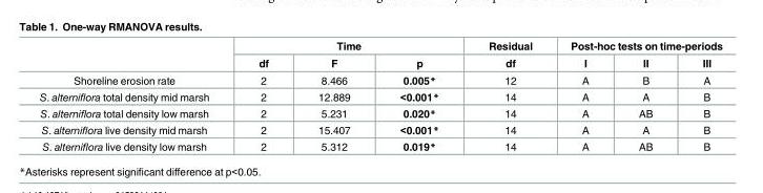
<table><thead><tr><td rowspan="2"></td><td colspan="3">Time</td><td rowspan="2">Residual df</td><td colspan="3">Post-hoc tests on time-periods</td></tr><tr><td>df</td><td>F</td><td>p</td><td>I</td><td>II</td><td>III</td></tr></thead><tbody><tr><td>Shoreline erosion rate</td><td>2</td><td>8.466</td><td>0.005*</td><td>12</td><td>A</td><td>B</td><td>A</td></tr><tr><td>S. alterniflora total density mid marsh</td><td>2</td><td>12.889</td><td>&lt;0.001*</td><td>14</td><td>A</td><td>A</td><td>B</td></tr><tr><td>S. alterniflora total density low marsh</td><td>2</td><td>5.231</td><td>0.020*</td><td>14</td><td>A</td><td>AB</td><td>B</td></tr><tr><td>S. alterniflora live density mid marsh</td><td>2</td><td>15.407</td><td>&lt;0.001*</td><td>14</td><td>A</td><td>A</td><td>B</td></tr><tr><td>S. alterniflora live density low marsh</td><td>2</td><td>5.312</td><td>0.019*</td><td>14</td><td>A</td><td>AB</td><td>B</td></tr></tbody></table>